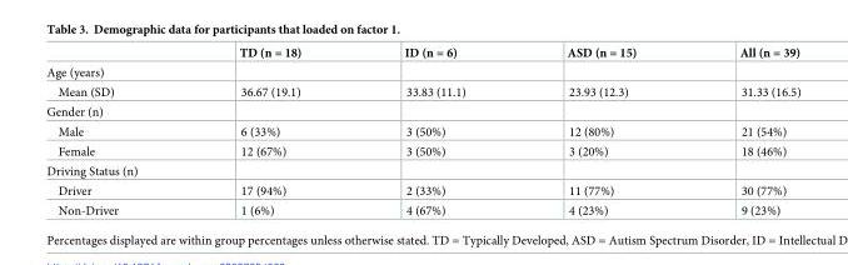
<table><thead><tr><td></td><td>TD (n = 18)</td><td>ID (n = 6)</td><td>ASD (n = 15)</td><td>All (n = 39)</td></tr></thead><tbody><tr><td colspan="5">Age (years)</td></tr><tr><td>Mean (SD)</td><td>36.67 (19.1)</td><td>33.83 (11.1)</td><td>23.93 (12.3)</td><td>31.33 (16.5)</td></tr><tr><td colspan="5">Gender (n)</td></tr><tr><td>Male</td><td>6 (33%)</td><td>3 (50%)</td><td>12 (80%)</td><td>21 (54%)</td></tr><tr><td>Female</td><td>12 (67%)</td><td>3 (50%)</td><td>3 (20%)</td><td>18 (46%)</td></tr><tr><td colspan="5">Driving Status (n)</td></tr><tr><td>Driver</td><td>17 (94%)</td><td>2 (33%)</td><td>11 (77%)</td><td>30 (77%)</td></tr><tr><td>Non-Driver</td><td>1 (6%)</td><td>4 (67%)</td><td>4 (23%)</td><td>9 (23%)</td></tr></tbody></table>